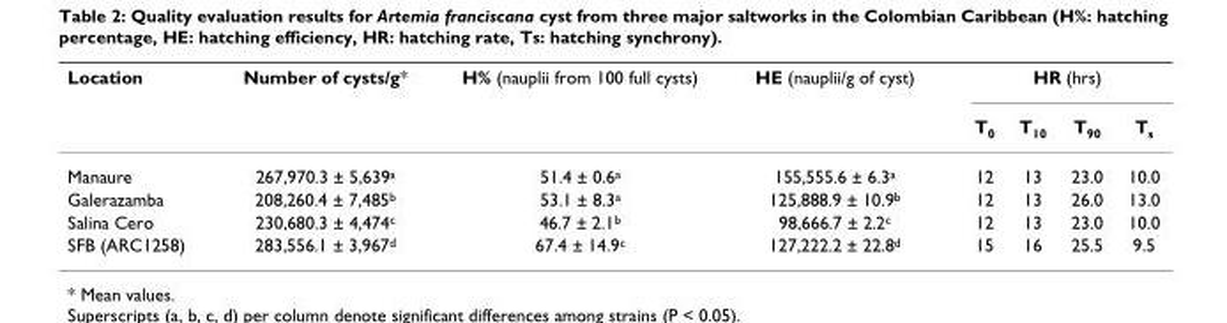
<table><thead><tr><td rowspan="2">Location</td><td rowspan="2">Number of cysts/g*</td><td rowspan="2">H% (nauplii from 100 full cysts)</td><td rowspan="2">HE (nauplii/g of cyst)</td><td colspan="4">HR (hrs)</td></tr><tr><td>T<sub>0</sub></td><td>T<sub>10</sub></td><td>T<sub>90</sub></td><td>T<sub>s</sub></td></tr></thead><tbody><tr><td>Manaure</td><td>267,970.3 ± 5,639<sup>a</sup></td><td>51.4 ± 0.6<sup>a</sup></td><td>155,555.6 ± 6.3<sup>a</sup></td><td>12</td><td>13</td><td>23.0</td><td>10.0</td></tr><tr><td>Galerazamba</td><td>208,260.4 ± 7,485<sup>b</sup></td><td>53.1 ± 8.3<sup>a</sup></td><td>125,888.9 ± 10.9<sup>b</sup></td><td>12</td><td>13</td><td>26.0</td><td>13.0</td></tr><tr><td>Salina Cero</td><td>230,680.3 ± 4,474<sup>c</sup></td><td>46.7 ± 2.1<sup>b</sup></td><td>98,666.7 ± 2.2<sup>c</sup></td><td>12</td><td>13</td><td>23.0</td><td>10.0</td></tr><tr><td>SFB (ARC1258)</td><td>283,556.1 ± 3,967<sup>d</sup></td><td>67.4 ± 14.9<sup>c</sup></td><td>127,222.2 ± 22.8<sup>d</sup></td><td>15</td><td>16</td><td>25.5</td><td>9.5</td></tr></tbody></table>